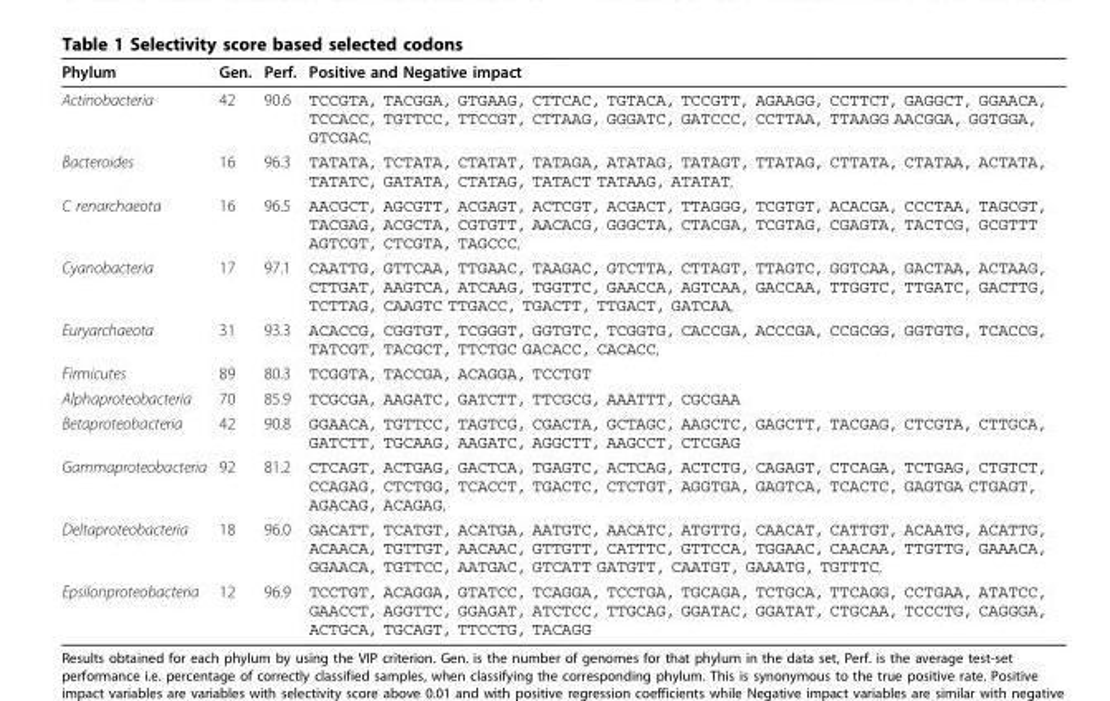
<table><thead><tr><td>Phylum</td><td>Gen.</td><td>Perf.</td><td>Positive and Negative impact</td></tr></thead><tbody><tr><td>Actinobacteria</td><td>42</td><td>90.6</td><td>TCCGTA, TACGGA, GTGAAG, CTTCAC, TGTACA, TCCGTT, AGAAGG, CCTTCT, GAGGCT, GGAACA, TCCACC, TGTTCC, TTCCGT, CTTAAG, GGGATC, GATCCC, CCTTAA, TTAAGG AACGGA, GGTGGA, GTCGAC,</td></tr><tr><td>Bacteroides</td><td>16</td><td>96.3</td><td>TATATA, TCTATA, CTATAT, TATAGA, ATATAG, TATAGT, TTATAG, CTTATA, CTATAA, ACTATA, TATATC, GATATA, CTATAG, TATACT TATAAG, ATATAT,</td></tr><tr><td>C renarchaeota</td><td>16</td><td>96.5</td><td>AACGCT, AGCGTT, ACGAGT, ACTCGT, ACGACT, TTAGGG, TCGTGT, ACACGA, CCCTAA, TAGCGT, TACGAG, ACGCTA, CGTGTT, AACACG, GGGCTA, CTACGA, TCGTAG, CGAGTA, TACTCG, GCGTTT AGTCGT, CTCGTA, TAGCCC,</td></tr><tr><td>Cyanobacteria</td><td>17</td><td>97.1</td><td>CAATTG, GTTCAA, TTGAAC, TAAGAC, GTCTTA, CTTAGT, TTAGTC, GGTCAA, GACTAA, ACTAAG, CTTGAT, AAGTCA, ATCAAG, TGGTTC, GAACCA, AGTCAA, GACCAA, TTGGTC, TTGATC, GACTTG, TCTTAG, CAAGTC TTGACC, TGACTT, TTGACT, GATCAA,</td></tr><tr><td>Euryarchaeota</td><td>31</td><td>93.3</td><td>ACACCG, CGGTGT, TCGGGT, GGTGTC, TCGGTG, CACCGA, ACCCGA, CCGCGG, GGTGTG, TCACCG, TATCGT, TACGCT, TTCTGC GACACC, CACACC,</td></tr><tr><td>Firmicutes</td><td>89</td><td>80.3</td><td>TCGGTA, TACCGA, ACAGGA, TCCTGT</td></tr><tr><td>Alphaproteobacteria</td><td>70</td><td>85.9</td><td>TCGCGA, AAGATC, GATCTT, TTCGCG, AAATTT, CGCGAA</td></tr><tr><td>Betaproteobacteria</td><td>42</td><td>90.8</td><td>GGAACA, TGTTCC, TAGTCG, CGACTA, GCTAGC, AAGCTC, GAGCTT, TACGAG, CTCGTA, CTTGCA, GATCTT, TGCAAG, AAGATC, AGGCTT, AAGCCT, CTCGAG</td></tr><tr><td>Gammaproteobacteria</td><td>92</td><td>81.2</td><td>CTCAGT, ACTGAG, GACTCA, TGAGTC, ACTCAG, ACTCTG, CAGAGT, CTCAGA, TCTGAG, CTGTCT, CCAGAG, CTCTGG, TCACCT, TGACTC, CTCTGT, AGGTGA, GAGTCA, TCACTC, GAGTGA CTGAGT, AGACAG, ACAGAG,</td></tr><tr><td>Deltaproteobacteria</td><td>18</td><td>96.0</td><td>GACATT, TCATGT, ACATGA, AATGTC, AACATC, ATGTTG, CAACAT, CATTGT, ACAATG, ACATTG, ACAACA, TGTTGT, AACAAC, GTTGTT, CATTTC, GTTCCA, TGGAAC, CAACAA, TTGTTG, GAAACA, GGAACA, TGTTCC, AATGAC, GTCATT GATGTT, CAATGT, GAAATG, TGTTTC,</td></tr><tr><td>Epsilonproteobacteria</td><td>12</td><td>96.9</td><td>TCCTGT, ACAGGA, GTATCC, TCAGGA, TCCTGA, TGCAGA, TCTGCA, TTCAGG, CCTGAA, ATATCC, GAACCT, AGGTTC, GGAGAT, ATCTCC, TTGCAG, GGATAC, GGATAT, CTGCAA, TCCCTG, CAGGGA, ACTGCA, TGCAGT, TTCCTG, TACAGG</td></tr></tbody></table>